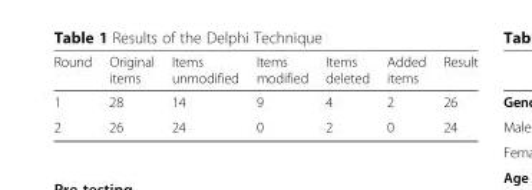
<table><thead><tr><td>Round</td><td>Original items</td><td>Items unmodified</td><td>Items modified</td><td>Items deleted</td><td>Added items</td><td>Result</td></tr></thead><tbody><tr><td>1</td><td>28</td><td>14</td><td>9</td><td>4</td><td>2</td><td>26</td></tr><tr><td>2</td><td>26</td><td>24</td><td>0</td><td>2</td><td>0</td><td>24</td></tr></tbody></table>